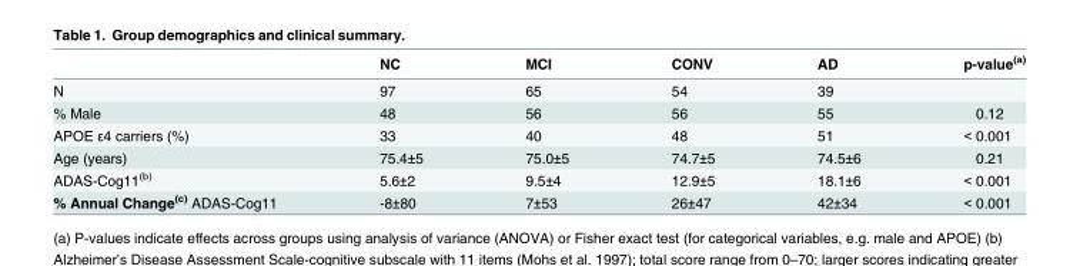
<table><thead><tr><td></td><td>NC</td><td>MCI</td><td>CONV</td><td>AD</td><td>p-value<sup>(a)</sup></td></tr></thead><tbody><tr><td>N</td><td>97</td><td>65</td><td>54</td><td>39</td><td></td></tr><tr><td>% Male</td><td>48</td><td>56</td><td>56</td><td>55</td><td>0.12</td></tr><tr><td>APOE ε4 carriers (%)</td><td>33</td><td>40</td><td>48</td><td>51</td><td>&lt; 0.001</td></tr><tr><td>Age (years)</td><td>75.4±5</td><td>75.0±5</td><td>74.7±5</td><td>74.5±6</td><td>0.21</td></tr><tr><td>ADAS-Cog11<sup>(b)</sup></td><td>5.6±2</td><td>9.5±4</td><td>12.9±5</td><td>18.1±6</td><td>&lt; 0.001</td></tr><tr><td>% Annual Change<sup>(c)</sup> ADAS-Cog11</td><td>-8±80</td><td>7±53</td><td>26±47</td><td>42±34</td><td>&lt; 0.001</td></tr></tbody></table>